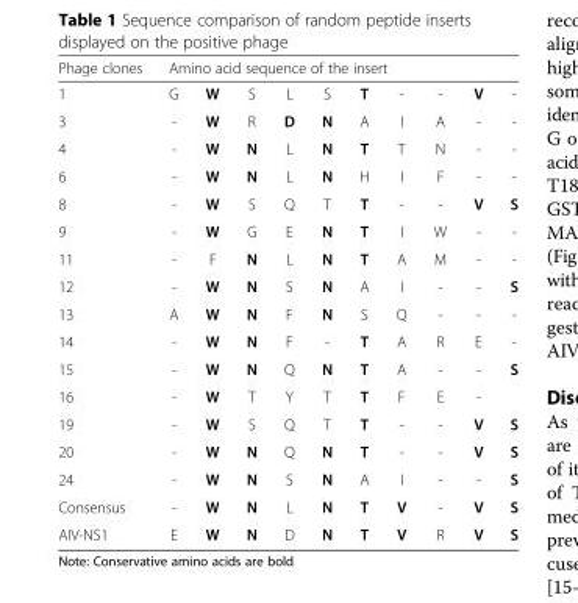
<table><thead><tr><td rowspan="2">Phage clones 1</td><td colspan="10">Amino acid sequence of the insert</td></tr><tr><td>G</td><td>W</td><td>S</td><td>L</td><td>S</td><td>T</td><td>-</td><td>-</td><td>V</td><td>-</td></tr></thead><tbody><tr><td>3</td><td>-</td><td>W</td><td>R</td><td>D</td><td>N</td><td>A</td><td>I</td><td>A</td><td>-</td><td>-</td></tr><tr><td>4</td><td>-</td><td>W</td><td>N</td><td>L</td><td>N</td><td>T</td><td>T</td><td>N</td><td>-</td><td>-</td></tr><tr><td>6</td><td>-</td><td>W</td><td>N</td><td>L</td><td>N</td><td>H</td><td>I</td><td>F</td><td>-</td><td>-</td></tr><tr><td>8</td><td>-</td><td>W</td><td>S</td><td>Q</td><td>T</td><td>T</td><td>-</td><td>-</td><td>V</td><td>S</td></tr><tr><td>9</td><td>-</td><td>W</td><td>G</td><td>E</td><td>N</td><td>T</td><td>I</td><td>W</td><td>-</td><td>-</td></tr><tr><td>11</td><td>-</td><td>F</td><td>N</td><td>L</td><td>N</td><td>T</td><td>A</td><td>M</td><td>-</td><td>-</td></tr><tr><td>12</td><td>-</td><td>W</td><td>N</td><td>S</td><td>N</td><td>A</td><td>I</td><td>-</td><td>-</td><td>S</td></tr><tr><td>13</td><td>A</td><td>W</td><td>N</td><td>F</td><td>N</td><td>S</td><td>Q</td><td>-</td><td>-</td><td>-</td></tr><tr><td>14</td><td>-</td><td>W</td><td>N</td><td>F</td><td>-</td><td>T</td><td>A</td><td>R</td><td>E</td><td>-</td></tr><tr><td>15</td><td>-</td><td>W</td><td>N</td><td>Q</td><td>N</td><td>T</td><td>A</td><td>-</td><td>-</td><td>S</td></tr><tr><td>16</td><td>-</td><td>W</td><td>T</td><td>Y</td><td>T</td><td>T</td><td>F</td><td>E</td><td>-</td><td></td></tr><tr><td>19</td><td>-</td><td>W</td><td>S</td><td>Q</td><td>T</td><td>T</td><td>-</td><td>-</td><td>V</td><td>S</td></tr><tr><td>20</td><td>-</td><td>W</td><td>N</td><td>Q</td><td>N</td><td>T</td><td>-</td><td>-</td><td>V</td><td>S</td></tr><tr><td>24</td><td>-</td><td>W</td><td>N</td><td>S</td><td>N</td><td>A</td><td>I</td><td>-</td><td>-</td><td>S</td></tr><tr><td>Consensus</td><td>-</td><td>W</td><td>N</td><td>L</td><td>N</td><td>T</td><td>V</td><td>-</td><td>V</td><td>S</td></tr><tr><td>AIV-NS1</td><td>E</td><td>W</td><td>N</td><td>D</td><td>N</td><td>T</td><td>V</td><td>R</td><td>V</td><td>S</td></tr></tbody></table>